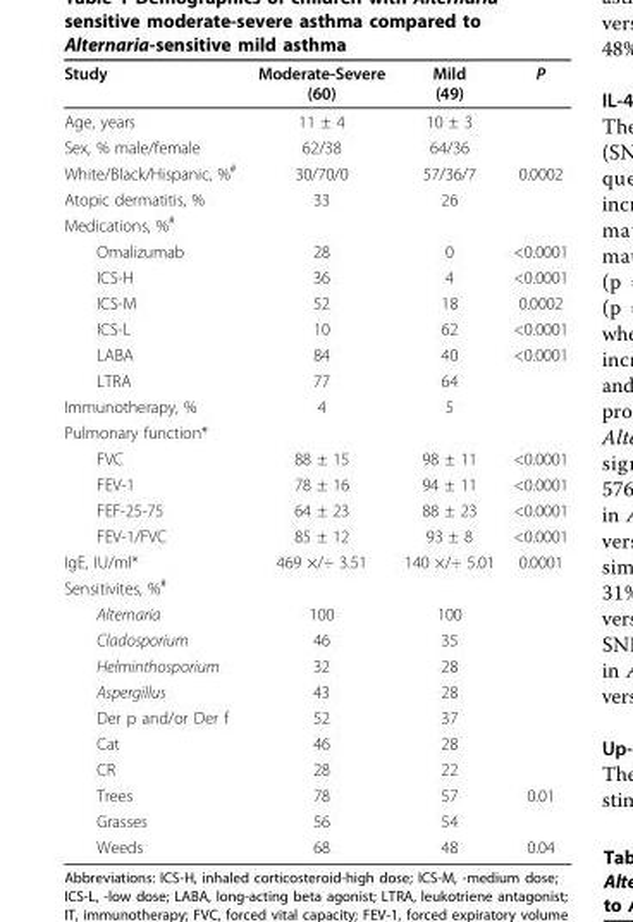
<table><thead><tr><td>Study</td><td>Moderate-Severe (60)</td><td>Mild (49)</td><td>P</td></tr></thead><tbody><tr><td>Age, years</td><td>11 ± 4</td><td>10 ± 3</td><td></td></tr><tr><td>Sex, % male/female</td><td>62/38</td><td>64/36</td><td></td></tr><tr><td>White/Black/Hispanic, %<sup>#</sup></td><td>30/70/0</td><td>57/36/7</td><td>0.0002</td></tr><tr><td>Atopic dermatitis, %</td><td>33</td><td>26</td><td></td></tr><tr><td colspan="4">Medications, %<sup>#</sup></td></tr><tr><td>Omalizumab</td><td>28</td><td>0</td><td>&lt;0.0001</td></tr><tr><td>ICS-H</td><td>36</td><td>4</td><td>&lt;0.0001</td></tr><tr><td>ICS-M</td><td>52</td><td>18</td><td>0.0002</td></tr><tr><td>ICS-L</td><td>10</td><td>62</td><td>&lt;0.0001</td></tr><tr><td>LABA</td><td>84</td><td>40</td><td>&lt;0.0001</td></tr><tr><td>LTRA</td><td>77</td><td>64</td><td></td></tr><tr><td>Immunotherapy, %</td><td>4</td><td>5</td><td></td></tr><tr><td colspan="4">Pulmonary function*</td></tr><tr><td>FVC</td><td>88 ± 15</td><td>98 ± 11</td><td>&lt;0.0001</td></tr><tr><td>FEV-1</td><td>78 ± 16</td><td>94 ± 11</td><td>&lt;0.0001</td></tr><tr><td>FEF-25-75</td><td>64 ± 23</td><td>88 ± 23</td><td>&lt;0.0001</td></tr><tr><td>FEV-1/FVC</td><td>85 ± 12</td><td>93 ± 8</td><td>&lt;0.0001</td></tr><tr><td>IgE, IU/ml*</td><td>469 ×/÷ 3.51</td><td>140 ×/÷ 5.01</td><td>0.0001</td></tr><tr><td colspan="4">Sensitivites, %<sup>#</sup></td></tr><tr><td>Alternaria</td><td>100</td><td>100</td><td></td></tr><tr><td>Cladosporium</td><td>46</td><td>35</td><td></td></tr><tr><td>Helminthosporium</td><td>32</td><td>28</td><td></td></tr><tr><td>Aspergillus</td><td>43</td><td>28</td><td></td></tr><tr><td>Der p and/or Der f</td><td>52</td><td>37</td><td></td></tr><tr><td>Cat</td><td>46</td><td>28</td><td></td></tr><tr><td>CR</td><td>28</td><td>22</td><td></td></tr><tr><td>Trees</td><td>78</td><td>57</td><td>0.01</td></tr><tr><td>Grasses</td><td>56</td><td>54</td><td></td></tr><tr><td>Weeds</td><td>68</td><td>48</td><td>0.04</td></tr></tbody></table>